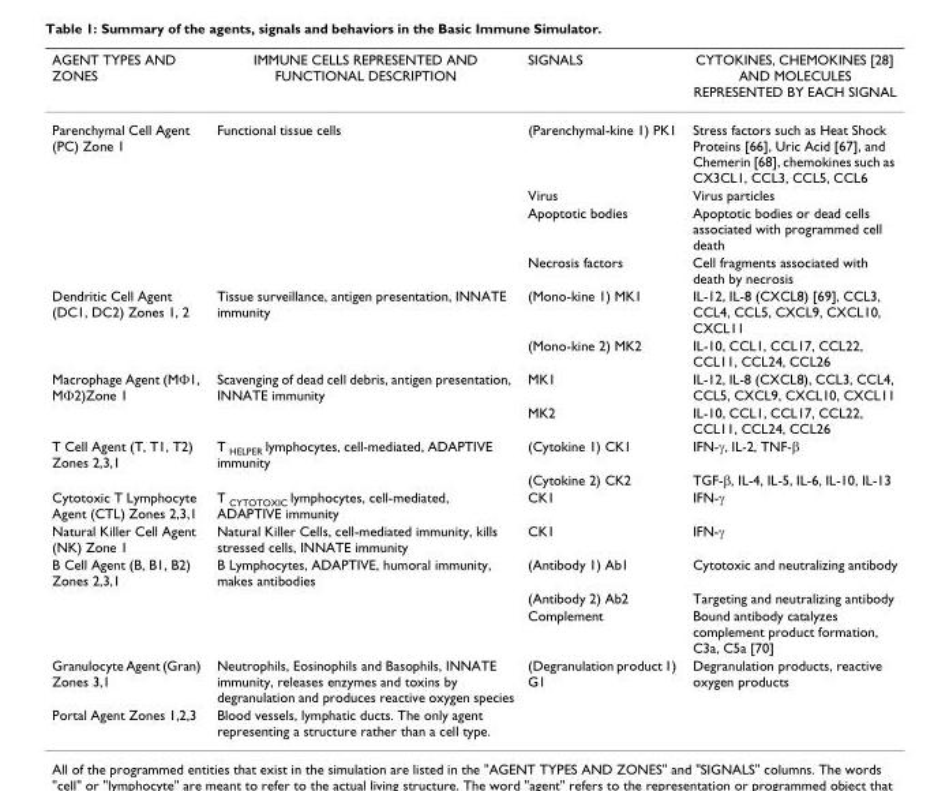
<table><thead><tr><td>AGENT TYPES AND ZONES</td><td>IMMUNE CELLS REPRESENTED AND FUNCTIONAL DESCRIPTION</td><td>SIGNALS</td><td>CYTOKINES, CHEMOKINES [28] AND MOLECULES REPRESENTED BY EACH SIGNAL</td></tr></thead><tbody><tr><td rowspan="4">Parenchymal Cell Agent (PC) Zone 1</td><td>Functional tissue cells</td><td>(Parenchymal-kine 1) PK1</td><td>Stress factors such as Heat Shock Proteins [66], Uric Acid [67], and Chemerin [68], chemokines such as CX3CL1, CCL3, CCL5, CCL6</td></tr><tr><td></td><td>Virus</td><td>Virus particles</td></tr><tr><td></td><td>Apoptotic bodies</td><td>Apoptotic bodies or dead cells associated with programmed cell death</td></tr><tr><td></td><td>Necrosis factors</td><td>Cell fragments associated with death by necrosis</td></tr><tr><td rowspan="2">Dendritic Cell Agent (DC1, DC2) Zones 1, 2</td><td>Tissue surveillance, antigen presentation, INNATE immunity</td><td>(Mono-kine 1) MK1</td><td>IL-12, IL-8 (CXCL8) [69], CCL3, CCL4, CCL5, CXCL9, CXCL10, CXCL11</td></tr><tr><td></td><td>(Mono-kine 2) MK2</td><td>IL-10, CCL1, CCL17, CCL22, CCL11, CCL24, CCL26</td></tr><tr><td rowspan="2">Macrophage Agent (MΦ1, MΦ2)Zone 1</td><td>Scavenging of dead cell debris, antigen presentation, INNATE immunity</td><td>MK1</td><td>IL-12, IL-8 (CXCL8), CCL3, CCL4, CCL5, CXCL9, CXCL10, CXCL11</td></tr><tr><td></td><td>MK2</td><td>IL-10, CCL1, CCL17, CCL22, CCL11, CCL24, CCL26</td></tr><tr><td rowspan="2">T Cell Agent (T, T1, T2) Zones 2,3,1</td><td>T <sub>HELPER</sub> lymphocytes, cell-mediated, ADAPTIVE immunity</td><td>(Cytokine 1) CK1</td><td>IFN-γ, IL-2, TNF-β</td></tr><tr><td></td><td>(Cytokine 2) CK2</td><td>TGF-β, IL-4, IL-5, IL-6, IL-10, IL-13</td></tr><tr><td>Cytotoxic T Lymphocyte Agent (CTL) Zones 2,3,1</td><td>T <sub>CYTOTOXIC</sub> lymphocytes, cell-mediated, ADAPTIVE immunity</td><td>CK1</td><td>IFN-γ</td></tr><tr><td>Natural Killer Cell Agent (NK) Zone 1</td><td>Natural Killer Cells, cell-mediated immunity, kills stressed cells, INNATE immunity</td><td>CK1</td><td>IFN-γ</td></tr><tr><td rowspan="3">B Cell Agent (B, B1, B2) Zones 2,3,1</td><td>B Lymphocytes, ADAPTIVE, humoral immunity, makes antibodies</td><td>(Antibody 1) Ab1</td><td>Cytotoxic and neutralizing antibody</td></tr><tr><td></td><td>(Antibody 2) Ab2</td><td>Targeting and neutralizing antibody</td></tr><tr><td></td><td>Complement</td><td>Bound antibody catalyzes complement product formation, C3a, C5a [70]</td></tr><tr><td>Granulocyte Agent (Gran) Zones 3,1</td><td>Neutrophils, Eosinophils and Basophils, INNATE immunity, releases enzymes and toxins by degranulation and produces reactive oxygen species</td><td>(Degranulation product 1) G1</td><td>Degranulation products, reactive oxygen products</td></tr><tr><td>Portal Agent Zones 1,2,3</td><td>Blood vessels, lymphatic ducts. The only agent representing a structure rather than a cell type.</td><td></td><td></td></tr></tbody></table>